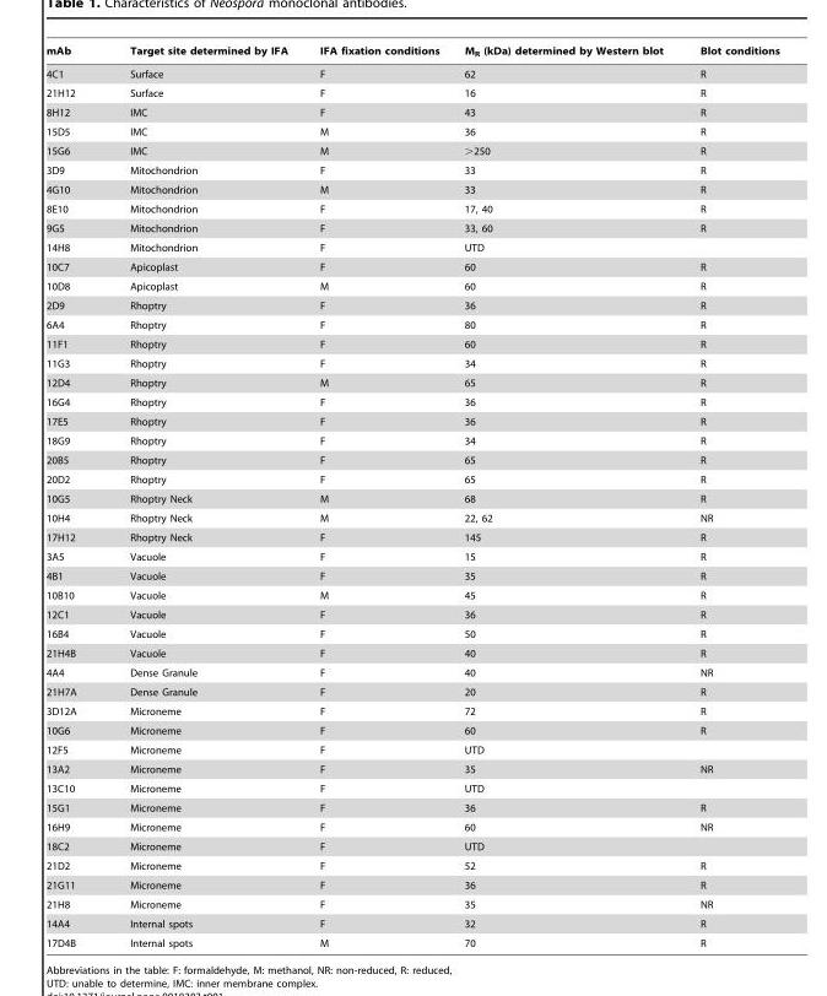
<table><thead><tr><td>mAb</td><td>Target site determined by IFA</td><td>IFA fixation conditions</td><td>M<sub>R</sub> (kDa) determined by Western blot</td><td>Blot conditions</td></tr></thead><tbody><tr><td>4C1</td><td>Surface</td><td>F</td><td>62</td><td>R</td></tr><tr><td>21H12</td><td>Surface</td><td>F</td><td>16</td><td>R</td></tr><tr><td>8H12</td><td>IMC</td><td>F</td><td>43</td><td>R</td></tr><tr><td>15D5</td><td>IMC</td><td>M</td><td>36</td><td>R</td></tr><tr><td>15G6</td><td>IMC</td><td>M</td><td>&gt;250</td><td>R</td></tr><tr><td>3D9</td><td>Mitochondrion</td><td>F</td><td>33</td><td>R</td></tr><tr><td>4G10</td><td>Mitochondrion</td><td>M</td><td>33</td><td>R</td></tr><tr><td>8E10</td><td>Mitochondrion</td><td>F</td><td>17, 40</td><td>R</td></tr><tr><td>9G5</td><td>Mitochondrion</td><td>F</td><td>33, 60</td><td>R</td></tr><tr><td>14H8</td><td>Mitochondrion</td><td>F</td><td>UTD</td><td></td></tr><tr><td>10C7</td><td>Apicoplast</td><td>F</td><td>60</td><td>R</td></tr><tr><td>10D8</td><td>Apicoplast</td><td>M</td><td>60</td><td>R</td></tr><tr><td>2D9</td><td>Rhoptry</td><td>F</td><td>36</td><td>R</td></tr><tr><td>6A4</td><td>Rhoptry</td><td>F</td><td>80</td><td>R</td></tr><tr><td>11F1</td><td>Rhoptry</td><td>F</td><td>60</td><td>R</td></tr><tr><td>11G3</td><td>Rhoptry</td><td>F</td><td>34</td><td>R</td></tr><tr><td>12D4</td><td>Rhoptry</td><td>M</td><td>65</td><td>R</td></tr><tr><td>16G4</td><td>Rhoptry</td><td>F</td><td>36</td><td>R</td></tr><tr><td>17E5</td><td>Rhoptry</td><td>F</td><td>36</td><td>R</td></tr><tr><td>18G9</td><td>Rhoptry</td><td>F</td><td>34</td><td>R</td></tr><tr><td>20B5</td><td>Rhoptry</td><td>F</td><td>65</td><td>R</td></tr><tr><td>20D2</td><td>Rhoptry</td><td>F</td><td>65</td><td>R</td></tr><tr><td>10G5</td><td>Rhoptry Neck</td><td>M</td><td>68</td><td>R</td></tr><tr><td>10H4</td><td>Rhoptry Neck</td><td>M</td><td>22, 62</td><td>NR</td></tr><tr><td>17H12</td><td>Rhoptry Neck</td><td>F</td><td>145</td><td>R</td></tr><tr><td>3A5</td><td>Vacuole</td><td>F</td><td>15</td><td>R</td></tr><tr><td>4B1</td><td>Vacuole</td><td>F</td><td>35</td><td>R</td></tr><tr><td>10B10</td><td>Vacuole</td><td>M</td><td>45</td><td>R</td></tr><tr><td>12C1</td><td>Vacuole</td><td>F</td><td>36</td><td>R</td></tr><tr><td>16B4</td><td>Vacuole</td><td>F</td><td>50</td><td>R</td></tr><tr><td>21H4B</td><td>Vacuole</td><td>F</td><td>40</td><td>R</td></tr><tr><td>4A4</td><td>Dense Granule</td><td>F</td><td>40</td><td>NR</td></tr><tr><td>21H7A</td><td>Dense Granule</td><td>F</td><td>20</td><td>R</td></tr><tr><td>3D12A</td><td>Microneme</td><td>F</td><td>72</td><td>R</td></tr><tr><td>10G6</td><td>Microneme</td><td>F</td><td>60</td><td>R</td></tr><tr><td>12F5</td><td>Microneme</td><td>F</td><td>UTD</td><td></td></tr><tr><td>13A2</td><td>Microneme</td><td>F</td><td>35</td><td>NR</td></tr><tr><td>13C10</td><td>Microneme</td><td>F</td><td>UTD</td><td></td></tr><tr><td>15G1</td><td>Microneme</td><td>F</td><td>36</td><td>R</td></tr><tr><td>16H9</td><td>Microneme</td><td>F</td><td>60</td><td>NR</td></tr><tr><td>18C2</td><td>Microneme</td><td>F</td><td>UTD</td><td></td></tr><tr><td>21D2</td><td>Microneme</td><td>F</td><td>52</td><td>R</td></tr><tr><td>21G11</td><td>Microneme</td><td>F</td><td>36</td><td>R</td></tr><tr><td>21H8</td><td>Microneme</td><td>F</td><td>35</td><td>NR</td></tr><tr><td>14A4</td><td>Internal spots</td><td>F</td><td>32</td><td>R</td></tr><tr><td>17D4B</td><td>Internal spots</td><td>M</td><td>70</td><td>R</td></tr></tbody></table>